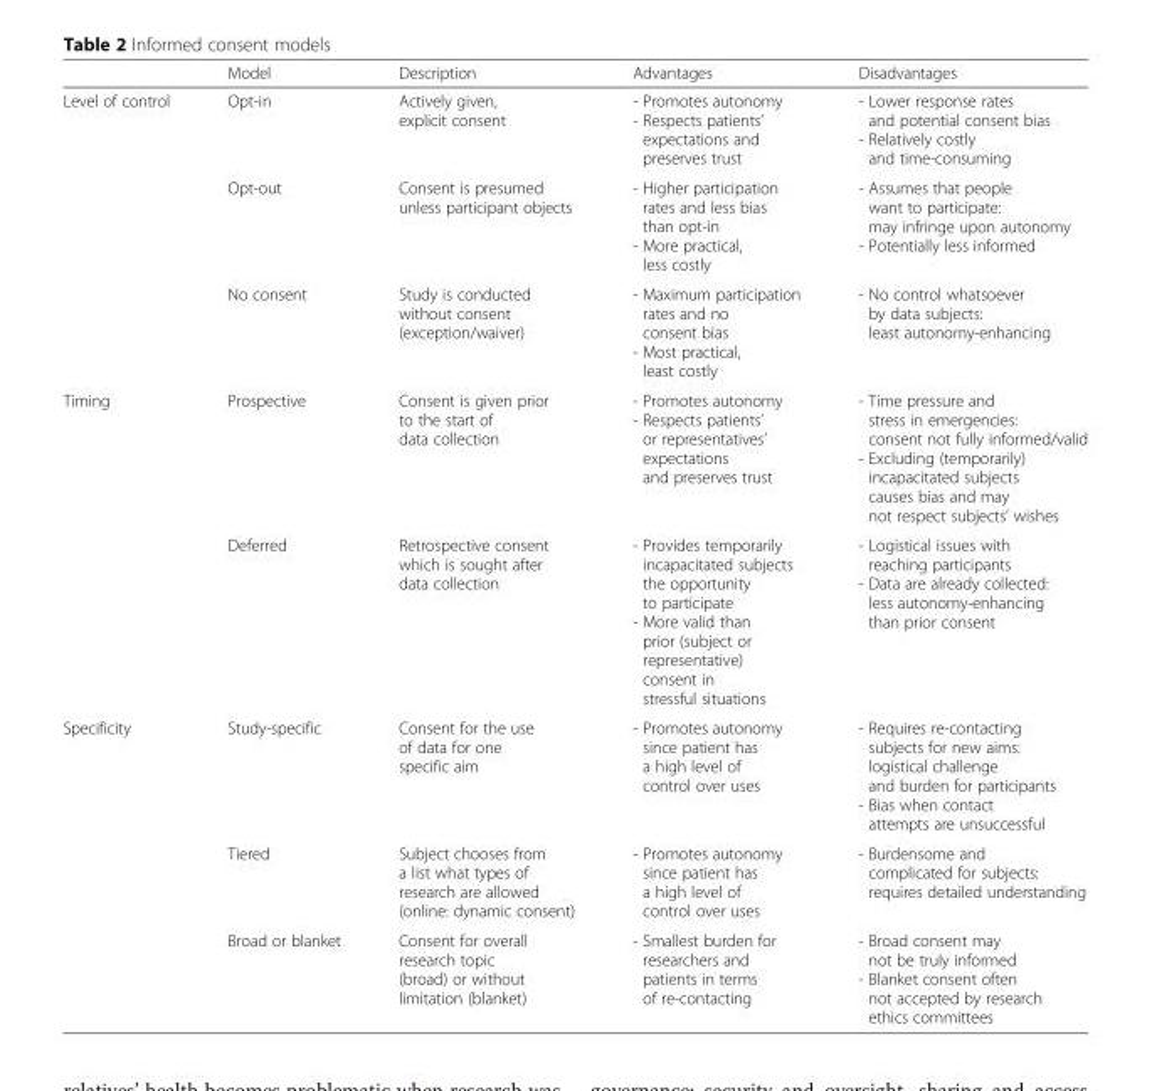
<table><thead><tr><td></td><td>Model</td><td>Description</td><td>Advantages</td><td>Disadvantages</td></tr></thead><tbody><tr><td rowspan="3">Level of control</td><td>Opt-in</td><td>Actively given, explicit consent</td><td>- Promotes autonomy - Respects patients’ expectations and preserves trust</td><td>- Lower response rates and potential consent bias - Relatively costly and time-consuming</td></tr><tr><td>Opt-out</td><td>Consent is presumed unless participant objects</td><td>- Higher participation rates and less bias than opt-in - More practical, less costly</td><td>- Assumes that people want to participate: may infringe upon autonomy - Potentially less informed</td></tr><tr><td>No consent</td><td>Study is conducted without consent (exception/waiver)</td><td>- Maximum participation rates and no consent bias - Most practical, least costly</td><td>- No control whatsoever by data subjects: least autonomy-enhancing</td></tr><tr><td rowspan="2">Timing</td><td>Prospective</td><td>Consent is given prior to the start of data collection</td><td>- Promotes autonomy - Respects patients’ or representatives’ expectations and preserves trust</td><td>- Time pressure and stress in emergencies: consent not fully informed/valid - Excluding (temporarily) incapacitated subjects causes bias and may not respect subjects’ wishes</td></tr><tr><td>Deferred</td><td>Retrospective consent which is sought after data collection</td><td>- Provides temporarily incapacitated subjects the opportunity to participate - More valid than prior (subject or representative) consent in stressful situations</td><td>- Logistical issues with reaching participants - Data are already collected: less autonomy-enhancing than prior consent</td></tr><tr><td rowspan="3">Specificity</td><td>Study-specific</td><td>Consent for the use of data for one specific aim</td><td>- Promotes autonomy since patient has a high level of control over uses</td><td>- Requires re-contacting subjects for new aims: logistical challenge and burden for participants - Bias when contact attempts are unsuccessful</td></tr><tr><td>Tiered</td><td>Subject chooses from a list what types of research are allowed (online: dynamic consent)</td><td>- Promotes autonomy since patient has a high level of control over uses</td><td>- Burdensome and complicated for subjects: requires detailed understanding</td></tr><tr><td>Broad or blanket</td><td>Consent for overall research topic (broad) or without limitation (blanket)</td><td>- Smallest burden for researchers and patients in terms of re-contacting</td><td>- Broad consent may not be truly informed - Blanket consent often not accepted by research ethics committees</td></tr></tbody></table>